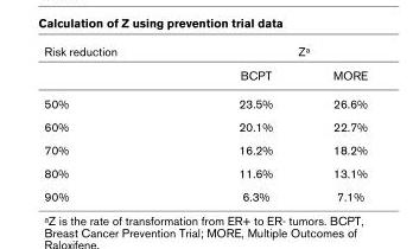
<table><thead><tr><td rowspan="2">Risk reduction</td><td colspan="2">Za</td></tr><tr><td>BCPT</td><td>MORE</td></tr></thead><tbody><tr><td>50%</td><td>23.5%</td><td>26.6%</td></tr><tr><td>60%</td><td>20.1%</td><td>22.7%</td></tr><tr><td>70%</td><td>16.2%</td><td>18.2%</td></tr><tr><td>80%</td><td>11.6%</td><td>13.1%</td></tr><tr><td>90%</td><td>6.3%</td><td>7.1%</td></tr></tbody></table>